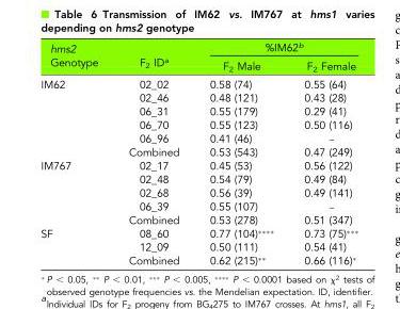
<table><thead><tr><td rowspan="2">hms2 Genotype</td><td rowspan="2">F<sub>2</sub> ID<sup>a</sup></td><td colspan="2">%IM62<sup>b</sup></td></tr><tr><td>F<sub>2</sub> Male</td><td>F<sub>2</sub> Female</td></tr></thead><tbody><tr><td rowspan="6">IM62</td><td>02_02</td><td>0.58 (74)</td><td>0.55 (64)</td></tr><tr><td>02_46</td><td>0.48 (121)</td><td>0.43 (28)</td></tr><tr><td>06_31</td><td>0.55 (179)</td><td>0.29 (41)</td></tr><tr><td>06_70</td><td>0.55 (123)</td><td>0.50 (116)</td></tr><tr><td>06_96</td><td>0.41 (46)</td><td>–</td></tr><tr><td>Combined</td><td>0.53 (543)</td><td>0.47 (249)</td></tr><tr><td rowspan="5">IM767</td><td>02_17</td><td>0.45 (53)</td><td>0.56 (122)</td></tr><tr><td>02_48</td><td>0.54 (79)</td><td>0.49 (84)</td></tr><tr><td>02_68</td><td>0.56 (39)</td><td>0.49 (141)</td></tr><tr><td>06_39</td><td>0.55 (107)</td><td>–</td></tr><tr><td>Combined</td><td>0.53 (278)</td><td>0.51 (347)</td></tr><tr><td rowspan="3">SF</td><td>08_60</td><td>0.77 (104)****</td><td>0.73 (75)***</td></tr><tr><td>12_09</td><td>0.50 (111)</td><td>0.54 (41)</td></tr><tr><td>Combined</td><td>0.62 (215)**</td><td>0.66 (116)*</td></tr></tbody></table>